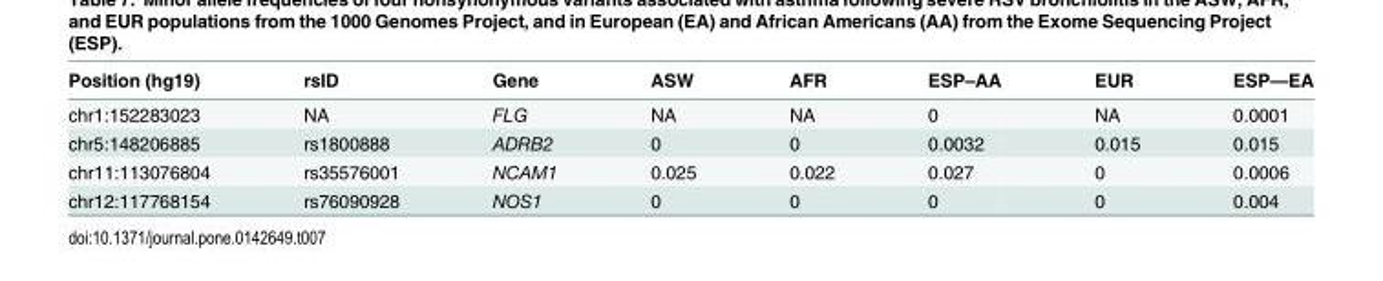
<table><thead><tr><td>Position (hg19)</td><td>rsID</td><td>Gene</td><td>ASW</td><td>AFR</td><td>ESP–AA</td><td>EUR</td><td>ESP—EA</td></tr></thead><tbody><tr><td>chr1:152283023</td><td>NA</td><td>FLG</td><td>NA</td><td>NA</td><td>0</td><td>NA</td><td>0.0001</td></tr><tr><td>chr5:148206885</td><td>rs1800888</td><td>ADRB2</td><td>0</td><td>0</td><td>0.0032</td><td>0.015</td><td>0.015</td></tr><tr><td>chr11:113076804</td><td>rs35576001</td><td>NCAM1</td><td>0.025</td><td>0.022</td><td>0.027</td><td>0</td><td>0.0006</td></tr><tr><td>chr12:117768154</td><td>rs76090928</td><td>NOS1</td><td>0</td><td>0</td><td>0</td><td>0</td><td>0.004</td></tr></tbody></table>